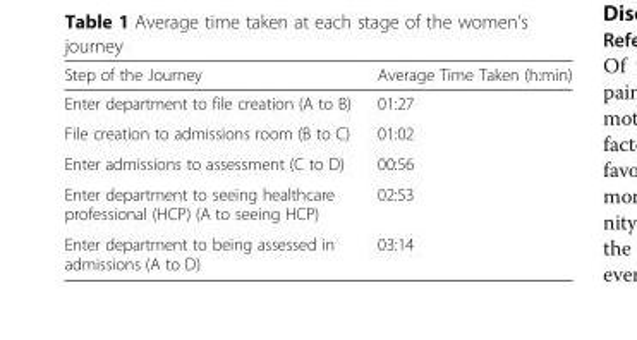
<table><thead><tr><td>Step of the Journey</td><td>Average Time Taken (h:min)</td></tr></thead><tbody><tr><td>Enter department to file creation (A to B)</td><td>01:27</td></tr><tr><td>File creation to admissions room (B to C)</td><td>01:02</td></tr><tr><td>Enter admissions to assessment (C to D)</td><td>00:56</td></tr><tr><td>Enter department to seeing healthcare professional (HCP) (A to seeing HCP)</td><td>02:53</td></tr><tr><td>Enter department to being assessed in admissions (A to D)</td><td>03:14</td></tr></tbody></table>